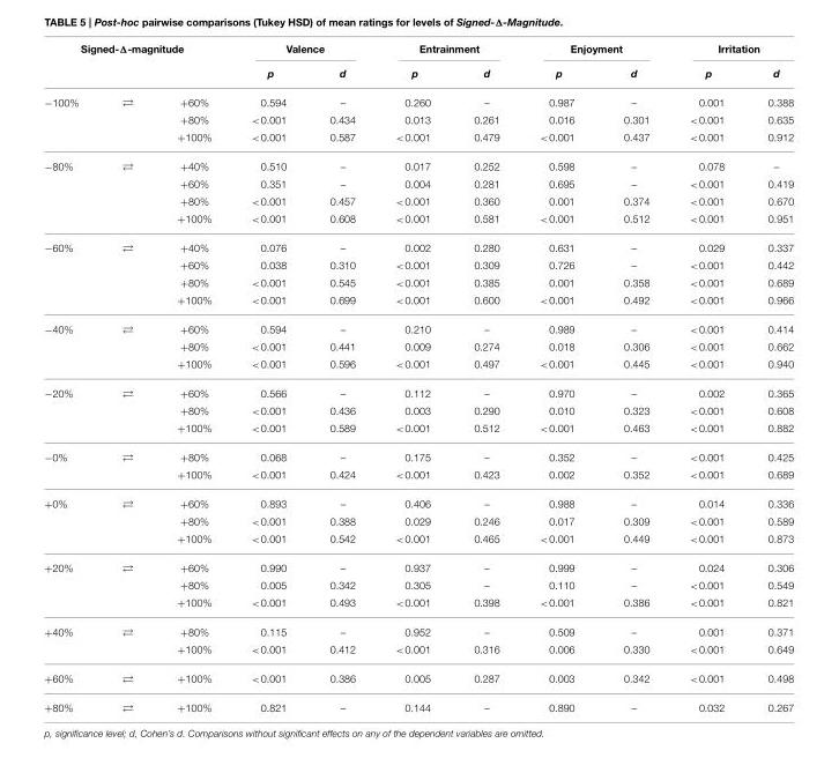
<table><thead><tr><td colspan="3">Signed-Δ-magnitude</td><td colspan="2">Valence</td><td colspan="2">Entrainment</td><td colspan="2">Enjoyment</td><td colspan="2">Irritation</td></tr><tr><td></td><td></td><td></td><td>p</td><td>d</td><td>p</td><td>d</td><td>p</td><td>d</td><td>p</td><td>d</td></tr></thead><tbody><tr><td rowspan="3">−100%</td><td>⇄</td><td>+60%</td><td>0.594</td><td>–</td><td>0.260</td><td>–</td><td>0.987</td><td>–</td><td>0.001</td><td>0.388</td></tr><tr><td></td><td>+80%</td><td>&lt;0.001</td><td>0.434</td><td>0.013</td><td>0.261</td><td>0.016</td><td>0.301</td><td>&lt;0.001</td><td>0.635</td></tr><tr><td></td><td>+100%</td><td>&lt;0.001</td><td>0.587</td><td>&lt;0.001</td><td>0.479</td><td>&lt;0.001</td><td>0.437</td><td>&lt;0.001</td><td>0.912</td></tr><tr><td rowspan="4">−80%</td><td>⇄</td><td>+40%</td><td>0.510</td><td>–</td><td>0.017</td><td>0.252</td><td>0.598</td><td>–</td><td>0.078</td><td>–</td></tr><tr><td></td><td>+60%</td><td>0.351</td><td>–</td><td>0.004</td><td>0.281</td><td>0.695</td><td>–</td><td>&lt;0.001</td><td>0.419</td></tr><tr><td></td><td>+80%</td><td>&lt;0.001</td><td>0.457</td><td>&lt;0.001</td><td>0.360</td><td>0.001</td><td>0.374</td><td>&lt;0.001</td><td>0.670</td></tr><tr><td></td><td>+100%</td><td>&lt;0.001</td><td>0.608</td><td>&lt;0.001</td><td>0.581</td><td>&lt;0.001</td><td>0.512</td><td>&lt;0.001</td><td>0.951</td></tr><tr><td rowspan="4">−60%</td><td>⇄</td><td>+40%</td><td>0.076</td><td>–</td><td>0.002</td><td>0.280</td><td>0.631</td><td>–</td><td>0.029</td><td>0.337</td></tr><tr><td></td><td>+60%</td><td>0.038</td><td>0.310</td><td>&lt;0.001</td><td>0.309</td><td>0.726</td><td>–</td><td>&lt;0.001</td><td>0.442</td></tr><tr><td></td><td>+80%</td><td>&lt;0.001</td><td>0.545</td><td>&lt;0.001</td><td>0.385</td><td>0.001</td><td>0.358</td><td>&lt;0.001</td><td>0.689</td></tr><tr><td></td><td>+100%</td><td>&lt;0.001</td><td>0.699</td><td>&lt;0.001</td><td>0.600</td><td>&lt;0.001</td><td>0.492</td><td>&lt;0.001</td><td>0.966</td></tr><tr><td rowspan="3">−40%</td><td>⇄</td><td>+60%</td><td>0.594</td><td>–</td><td>0.210</td><td>–</td><td>0.989</td><td>–</td><td>&lt;0.001</td><td>0.414</td></tr><tr><td></td><td>+80%</td><td>&lt;0.001</td><td>0.441</td><td>0.009</td><td>0.274</td><td>0.018</td><td>0.306</td><td>&lt;0.001</td><td>0.662</td></tr><tr><td></td><td>+100%</td><td>&lt;0.001</td><td>0.596</td><td>&lt;0.001</td><td>0.497</td><td>&lt;0.001</td><td>0.445</td><td>&lt;0.001</td><td>0.940</td></tr><tr><td rowspan="3">−20%</td><td>⇄</td><td>+60%</td><td>0.566</td><td>–</td><td>0.112</td><td>–</td><td>0.970</td><td>–</td><td>0.002</td><td>0.365</td></tr><tr><td></td><td>+80%</td><td>&lt;0.001</td><td>0.436</td><td>0.003</td><td>0.290</td><td>0.010</td><td>0.323</td><td>&lt;0.001</td><td>0.608</td></tr><tr><td></td><td>+100%</td><td>&lt;0.001</td><td>0.589</td><td>&lt;0.001</td><td>0.512</td><td>&lt;0.001</td><td>0.463</td><td>&lt;0.001</td><td>0.882</td></tr><tr><td rowspan="2">−0%</td><td>⇄</td><td>+80%</td><td>0.068</td><td>–</td><td>0.175</td><td>–</td><td>0.352</td><td>–</td><td>&lt;0.001</td><td>0.425</td></tr><tr><td></td><td>+100%</td><td>&lt;0.001</td><td>0.424</td><td>&lt;0.001</td><td>0.423</td><td>0.002</td><td>0.352</td><td>&lt;0.001</td><td>0.689</td></tr><tr><td rowspan="3">+0%</td><td>⇄</td><td>+60%</td><td>0.893</td><td>–</td><td>0.406</td><td>–</td><td>0.988</td><td>–</td><td>0.014</td><td>0.336</td></tr><tr><td></td><td>+80%</td><td>&lt;0.001</td><td>0.388</td><td>0.029</td><td>0.246</td><td>0.017</td><td>0.309</td><td>&lt;0.001</td><td>0.589</td></tr><tr><td></td><td>+100%</td><td>&lt;0.001</td><td>0.542</td><td>&lt;0.001</td><td>0.465</td><td>&lt;0.001</td><td>0.449</td><td>&lt;0.001</td><td>0.873</td></tr><tr><td rowspan="3">+20%</td><td>⇄</td><td>+60%</td><td>0.990</td><td>–</td><td>0.937</td><td>–</td><td>0.999</td><td>–</td><td>0.024</td><td>0.306</td></tr><tr><td></td><td>+80%</td><td>0.005</td><td>0.342</td><td>0.305</td><td>–</td><td>0.110</td><td>–</td><td>&lt;0.001</td><td>0.549</td></tr><tr><td></td><td>+100%</td><td>&lt;0.001</td><td>0.493</td><td>&lt;0.001</td><td>0.398</td><td>&lt;0.001</td><td>0.386</td><td>&lt;0.001</td><td>0.821</td></tr><tr><td rowspan="2">+40%</td><td>⇄</td><td>+80%</td><td>0.115</td><td>–</td><td>0.952</td><td>–</td><td>0.509</td><td>–</td><td>0.001</td><td>0.371</td></tr><tr><td></td><td>+100%</td><td>&lt;0.001</td><td>0.412</td><td>&lt;0.001</td><td>0.316</td><td>0.006</td><td>0.330</td><td>&lt;0.001</td><td>0.649</td></tr><tr><td>+60%</td><td>⇄</td><td>+100%</td><td>&lt;0.001</td><td>0.386</td><td>0.005</td><td>0.287</td><td>0.003</td><td>0.342</td><td>&lt;0.001</td><td>0.498</td></tr><tr><td>+80%</td><td>⇄</td><td>+100%</td><td>0.821</td><td>–</td><td>0.144</td><td>–</td><td>0.890</td><td>–</td><td>0.032</td><td>0.267</td></tr></tbody></table>